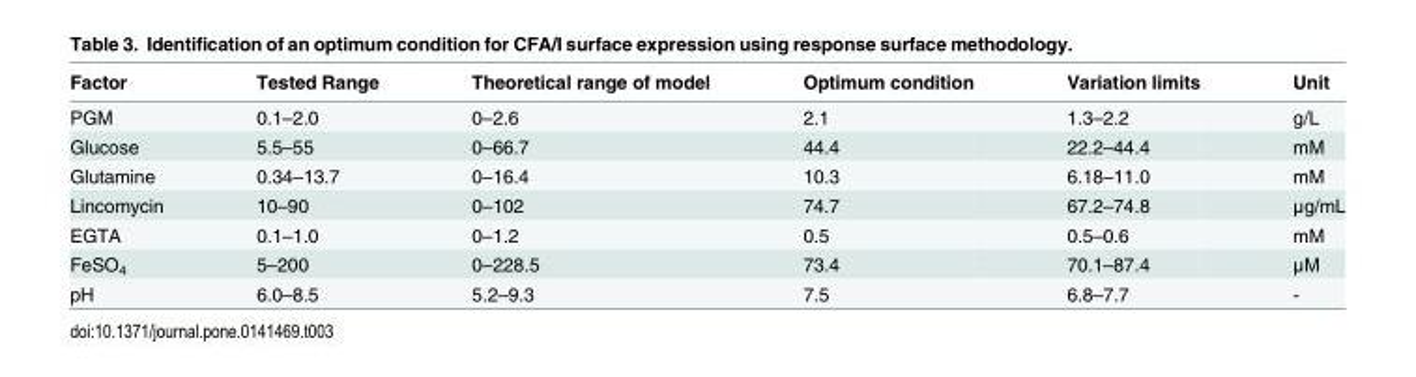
<table><thead><tr><td>Factor</td><td>Tested Range</td><td>Theoretical range of model</td><td>Optimum condition</td><td>Variation limits</td><td>Unit</td></tr></thead><tbody><tr><td>PGM</td><td>0.1–2.0</td><td>0–2.6</td><td>2.1</td><td>1.3–2.2</td><td>g/L</td></tr><tr><td>Glucose</td><td>5.5–55</td><td>0–66.7</td><td>44.4</td><td>22.2–44.4</td><td>mM</td></tr><tr><td>Glutamine</td><td>0.34–13.7</td><td>0–16.4</td><td>10.3</td><td>6.18–11.0</td><td>mM</td></tr><tr><td>Lincomycin</td><td>10–90</td><td>0–102</td><td>74.7</td><td>67.2–74.8</td><td>μg/mL</td></tr><tr><td>EGTA</td><td>0.1–1.0</td><td>0–1.2</td><td>0.5</td><td>0.5–0.6</td><td>mM</td></tr><tr><td>FeSO<sub>4</sub></td><td>5–200</td><td>0–228.5</td><td>73.4</td><td>70.1–87.4</td><td>μM</td></tr><tr><td>pH</td><td>6.0–8.5</td><td>5.2–9.3</td><td>7.5</td><td>6.8–7.7</td><td>-</td></tr></tbody></table>